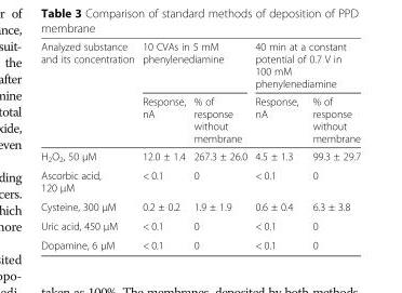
<table><thead><tr><td rowspan="2">Analyzed substance and its concentration</td><td colspan="2">10 CVAs in 5 mM phenylenediamine</td><td colspan="2">40 min at a constant potential of 0.7 V in 100 mM phenylenediamine</td></tr><tr><td>Response, nA</td><td>% of response without membrane</td><td>Response, nA</td><td>% of response without membrane</td></tr></thead><tbody><tr><td>H<sub>2</sub>O<sub>2</sub>, 50 μM</td><td>12.0 ± 1.4</td><td>267.3 ± 26.0</td><td>4.5 ± 1.3</td><td>99.3 ± 29.7</td></tr><tr><td>Ascorbic acid, 120 μM</td><td>&lt; 0.1</td><td>0</td><td>&lt; 0.1</td><td>0</td></tr><tr><td>Cysteine, 300 μM</td><td>0.2 ± 0.2</td><td>1.9 ± 1.9</td><td>0.6 ± 0.4</td><td>6.3 ± 3.8</td></tr><tr><td>Uric acid, 450 μM</td><td>&lt; 0.1</td><td>0</td><td>&lt; 0.1</td><td>0</td></tr><tr><td>Dopamine, 6 μM</td><td>&lt; 0.1</td><td>0</td><td>&lt; 0.1</td><td>0</td></tr></tbody></table>